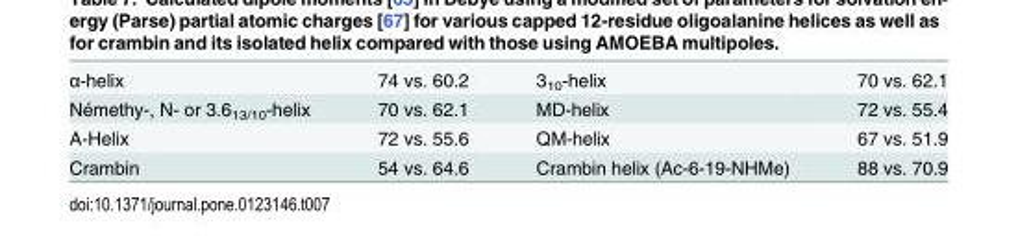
<table><tbody><tr><td>α-helix</td><td>74 vs. 60.2</td><td>3<sub>10</sub>-helix</td><td>70 vs. 62.1</td></tr><tr><td>Némethy-, N- or 3.6<sub>13/10</sub>-helix</td><td>70 vs. 62.1</td><td>MD-helix</td><td>72 vs. 55.4</td></tr><tr><td>A-Helix</td><td>72 vs. 55.6</td><td>QM-helix</td><td>67 vs. 51.9</td></tr><tr><td>Crambin</td><td>54 vs. 64.6</td><td>Crambin helix (Ac-6-19-NHMe)</td><td>88 vs. 70.9</td></tr></tbody></table>